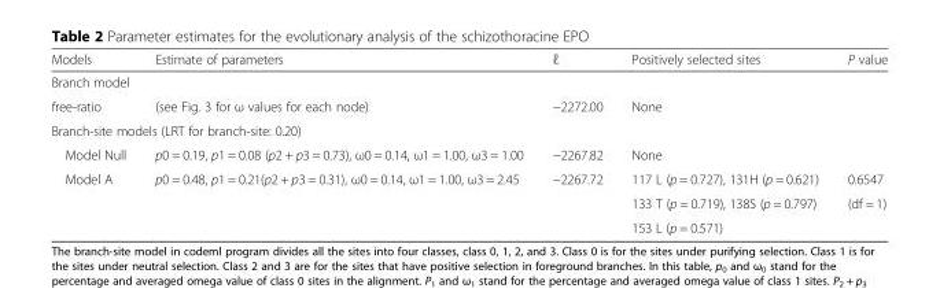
<table><thead><tr><td>Models</td><td>Estimate of parameters</td><td>ℓ</td><td>Positively selected sites</td><td>P value</td></tr></thead><tbody><tr><td colspan="5">Branch model</td></tr><tr><td>free-ratio</td><td>(see Fig. 3 for ω values for each node)</td><td>−2272.00</td><td>None</td><td></td></tr><tr><td colspan="5">Branch-site models (LRT for branch-site: 0.20)</td></tr><tr><td>Model Null</td><td>p0 = 0.19, p1 = 0.08 (p2 + p3 = 0.73), ω0 = 0.14, ω1 = 1.00, ω3 = 1.00</td><td>−2267.82</td><td>None</td><td></td></tr><tr><td rowspan="3">Model A</td><td>p0 = 0.48, p1 = 0.21(p2 + p3 = 0.31), ω0 = 0.14, ω1 = 1.00, ω3 = 2.45</td><td>−2267.72</td><td>117 L (p = 0.727), 131H (p = 0.621)</td><td>0.6547</td></tr><tr><td></td><td></td><td>133 T (p = 0.719), 138S (p = 0.797)</td><td>(df = 1)</td></tr><tr><td></td><td></td><td>153 L (p = 0.571)</td><td></td></tr></tbody></table>